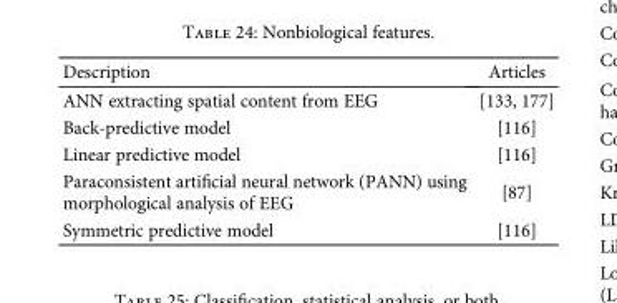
<table><thead><tr><td>Description</td><td>Articles</td></tr></thead><tbody><tr><td>ANN extracting spatial content from EEG</td><td>[133, 177]</td></tr><tr><td>Back-predictive model</td><td>[116]</td></tr><tr><td>Linear predictive model</td><td>[116]</td></tr><tr><td>Paraconsistent artificial neural network (PANN) using morphological analysis of EEG</td><td>[87]</td></tr><tr><td>Symmetric predictive model</td><td>[116]</td></tr></tbody></table>